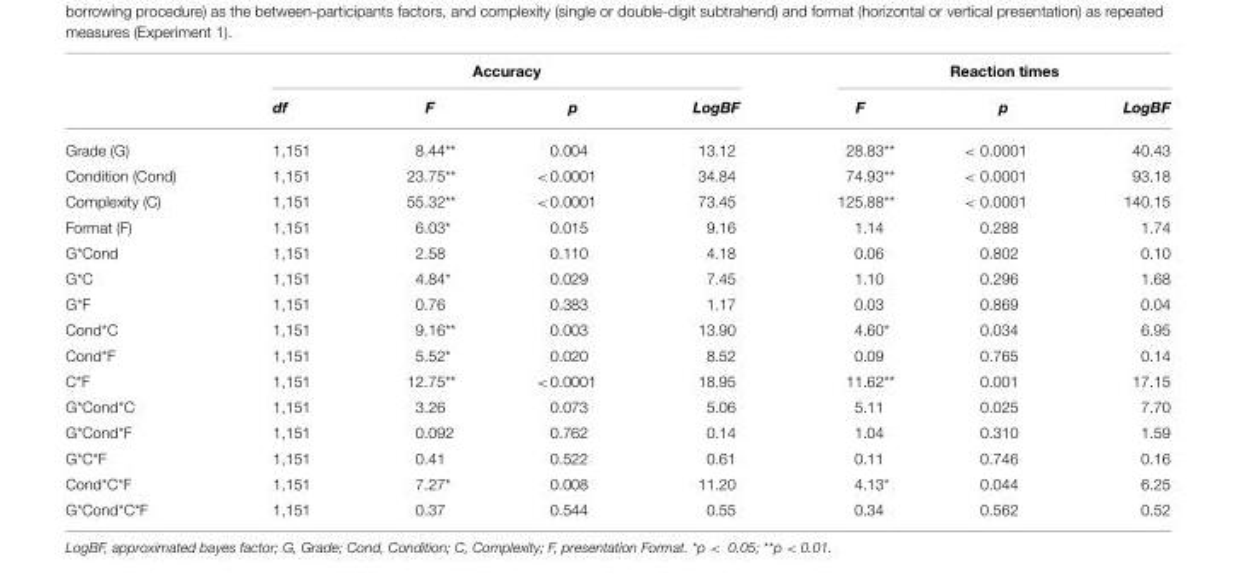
<table><thead><tr><td rowspan="2"></td><td colspan="4">Accuracy</td><td colspan="3">Reaction times</td></tr><tr><td>df</td><td>F</td><td>p</td><td>LogBF</td><td>F</td><td>p</td><td>LogBF</td></tr></thead><tbody><tr><td>Grade (G)</td><td>1,151</td><td>8.44**</td><td>0.004</td><td>13.12</td><td>28.83**</td><td>&lt; 0.0001</td><td>40.43</td></tr><tr><td>Condition (Cond)</td><td>1,151</td><td>23.75**</td><td>&lt;0.0001</td><td>34.84</td><td>74.93**</td><td>&lt; 0.0001</td><td>93.18</td></tr><tr><td>Complexity (C)</td><td>1,151</td><td>55.32**</td><td>&lt;0.0001</td><td>73.45</td><td>125.88**</td><td>&lt; 0.0001</td><td>140.15</td></tr><tr><td>Format (F)</td><td>1,151</td><td>6.03*</td><td>0.015</td><td>9.16</td><td>1.14</td><td>0.288</td><td>1.74</td></tr><tr><td>G*Cond</td><td>1,151</td><td>2.58</td><td>0.110</td><td>4.18</td><td>0.06</td><td>0.802</td><td>0.10</td></tr><tr><td>G*C</td><td>1,151</td><td>4.84*</td><td>0.029</td><td>7.45</td><td>1.10</td><td>0.296</td><td>1.68</td></tr><tr><td>G*F</td><td>1,151</td><td>0.76</td><td>0.383</td><td>1.17</td><td>0.03</td><td>0.869</td><td>0.04</td></tr><tr><td>Cond*C</td><td>1,151</td><td>9.16**</td><td>0.003</td><td>13.90</td><td>4.60*</td><td>0.034</td><td>6.95</td></tr><tr><td>Cond*F</td><td>1,151</td><td>5.52*</td><td>0.020</td><td>8.52</td><td>0.09</td><td>0.765</td><td>0.14</td></tr><tr><td>C*F</td><td>1,151</td><td>12.75**</td><td>&lt;0.0001</td><td>18.95</td><td>11.62**</td><td>0.001</td><td>17.15</td></tr><tr><td>G*Cond*C</td><td>1,151</td><td>3.26</td><td>0.073</td><td>5.06</td><td>5.11</td><td>0.025</td><td>7.70</td></tr><tr><td>G*Cond*F</td><td>1,151</td><td>0.092</td><td>0.762</td><td>0.14</td><td>1.04</td><td>0.310</td><td>1.59</td></tr><tr><td>G*C*F</td><td>1,151</td><td>0.41</td><td>0.522</td><td>0.61</td><td>0.11</td><td>0.746</td><td>0.16</td></tr><tr><td>Cond*C*F</td><td>1,151</td><td>7.27*</td><td>0.008</td><td>11.20</td><td>4.13*</td><td>0.044</td><td>6.25</td></tr><tr><td>G*Cond*C*F</td><td>1,151</td><td>0.37</td><td>0.544</td><td>0.55</td><td>0.34</td><td>0.562</td><td>0.52</td></tr></tbody></table>